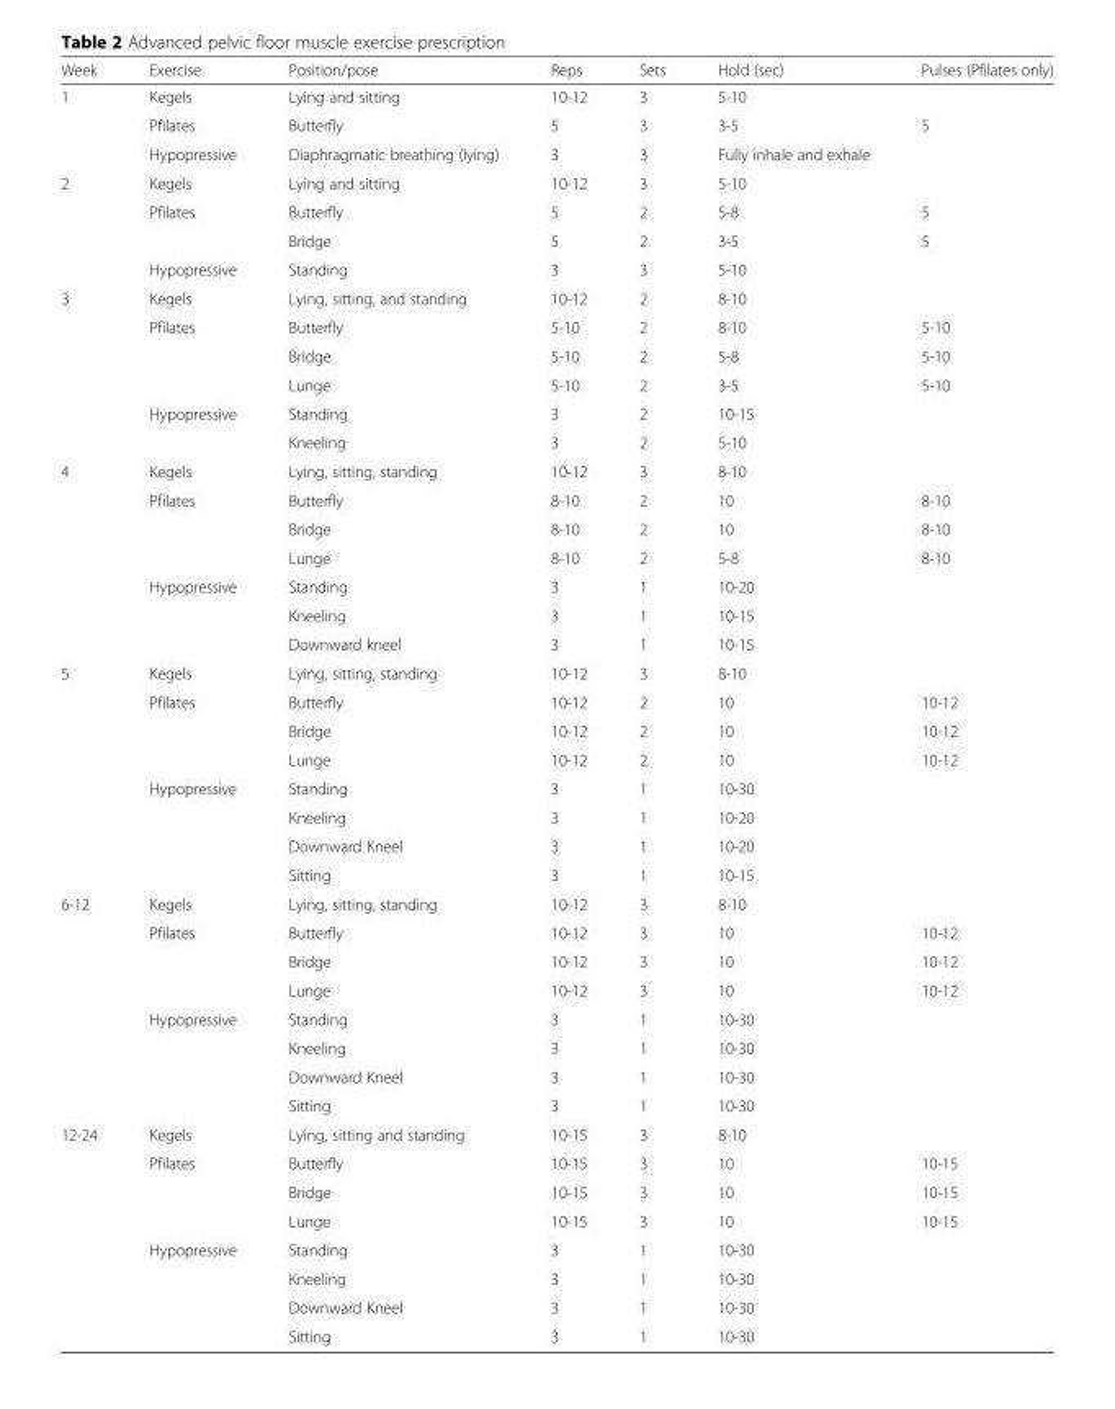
<table><thead><tr><td>Week</td><td>Exercise</td><td>Position/pose</td><td>Reps</td><td>Sets</td><td>Hold (sec)</td><td>Pulses (Pfilates only)</td></tr></thead><tbody><tr><td rowspan="3">1</td><td>Kegels</td><td>Lying and sitting</td><td>10-12</td><td>3</td><td>5-10</td><td></td></tr><tr><td>Pfilates</td><td>Butterfly</td><td>5</td><td>3</td><td>3-5</td><td>5</td></tr><tr><td>Hypopressive</td><td>Diaphragmatic breathing (lying)</td><td>3</td><td>3</td><td>Fully inhale and exhale</td><td></td></tr><tr><td rowspan="4">2</td><td>Kegels</td><td>Lying and sitting</td><td>10-12</td><td>3</td><td>5-10</td><td></td></tr><tr><td rowspan="2">Pfilates</td><td>Butterfly</td><td>5</td><td>2</td><td>5-8</td><td>5</td></tr><tr><td>Bridge</td><td>5</td><td>2</td><td>3-5</td><td>5</td></tr><tr><td>Hypopressive</td><td>Standing</td><td>3</td><td>3</td><td>5-10</td><td></td></tr><tr><td rowspan="6">3</td><td>Kegels</td><td>Lying, sitting, and standing</td><td>10-12</td><td>2</td><td>8-10</td><td></td></tr><tr><td rowspan="3">Pfilates</td><td>Butterfly</td><td>5-10</td><td>2</td><td>8-10</td><td>5-10</td></tr><tr><td>Bridge</td><td>5-10</td><td>2</td><td>5-8</td><td>5-10</td></tr><tr><td>Lunge</td><td>5-10</td><td>2</td><td>3-5</td><td>5-10</td></tr><tr><td rowspan="2">Hypopressive</td><td>Standing</td><td>3</td><td>2</td><td>10-15</td><td rowspan="2"></td></tr><tr><td>Kneeling</td><td>3</td><td>2</td><td>5-10</td></tr><tr><td rowspan="7">4</td><td>Kegels</td><td>Lying, sitting, standing</td><td>10-12</td><td>3</td><td>8-10</td><td></td></tr><tr><td rowspan="3">Pfilates</td><td>Butterfly</td><td>8-10</td><td>2</td><td>10</td><td>8-10</td></tr><tr><td>Bridge</td><td>8-10</td><td>2</td><td>10</td><td>8-10</td></tr><tr><td>Lunge</td><td>8-10</td><td>2</td><td>5-8</td><td>8-10</td></tr><tr><td rowspan="3">Hypopressive</td><td>Standing</td><td>3</td><td>1</td><td>10-20</td><td rowspan="3"></td></tr><tr><td>Kneeling</td><td>3</td><td>1</td><td>10-15</td></tr><tr><td>Downward kneel</td><td>3</td><td>1</td><td>10-15</td></tr><tr><td rowspan="8">5</td><td>Kegels</td><td>Lying, sitting, standing</td><td>10-12</td><td>3</td><td>8-10</td><td></td></tr><tr><td rowspan="3">Pfilates</td><td>Butterfly</td><td>10-12</td><td>2</td><td>10</td><td>10-12</td></tr><tr><td>Bridge</td><td>10-12</td><td>2</td><td>10</td><td>10-12</td></tr><tr><td>Lunge</td><td>10-12</td><td>2</td><td>10</td><td>10-12</td></tr><tr><td rowspan="4">Hypopressive</td><td>Standing</td><td>3</td><td>1</td><td>10-30</td><td rowspan="4"></td></tr><tr><td>Kneeling</td><td>3</td><td>1</td><td>10-20</td></tr><tr><td>Downward Kneel</td><td>3</td><td>1</td><td>10-20</td></tr><tr><td>Sitting</td><td>3</td><td>1</td><td>10-15</td></tr><tr><td rowspan="8">6-12</td><td>Kegels</td><td>Lying, sitting, standing</td><td>10-12</td><td>3</td><td>8-10</td><td></td></tr><tr><td rowspan="3">Pfilates</td><td>Butterfly</td><td>10-12</td><td>3</td><td>10</td><td>10-12</td></tr><tr><td>Bridge</td><td>10-12</td><td>3</td><td>10</td><td>10-12</td></tr><tr><td>Lunge</td><td>10-12</td><td>3</td><td>10</td><td>10-12</td></tr><tr><td rowspan="4">Hypopressive</td><td>Standing</td><td>3</td><td>1</td><td>10-30</td><td rowspan="4"></td></tr><tr><td>Kneeling</td><td>3</td><td>1</td><td>10-30</td></tr><tr><td>Downward Kneel</td><td>3</td><td>1</td><td>10-30</td></tr><tr><td>Sitting</td><td>3</td><td>1</td><td>10-30</td></tr><tr><td rowspan="8">12-24</td><td>Kegels</td><td>Lying, sitting and standing</td><td>10-15</td><td>3</td><td>8-10</td><td></td></tr><tr><td rowspan="3">Pfilates</td><td>Butterfly</td><td>10-15</td><td>3</td><td>10</td><td>10-15</td></tr><tr><td>Bridge</td><td>10-15</td><td>3</td><td>10</td><td>10-15</td></tr><tr><td>Lunge</td><td>10-15</td><td>3</td><td>10</td><td>10-15</td></tr><tr><td rowspan="4">Hypopressive</td><td>Standing</td><td>3</td><td>1</td><td>10-30</td><td rowspan="4"></td></tr><tr><td>Kneeling</td><td>3</td><td>1</td><td>10-30</td></tr><tr><td>Downward Kneel</td><td>3</td><td>1</td><td>10-30</td></tr><tr><td>Sitting</td><td>3</td><td>1</td><td>10-30</td></tr></tbody></table>